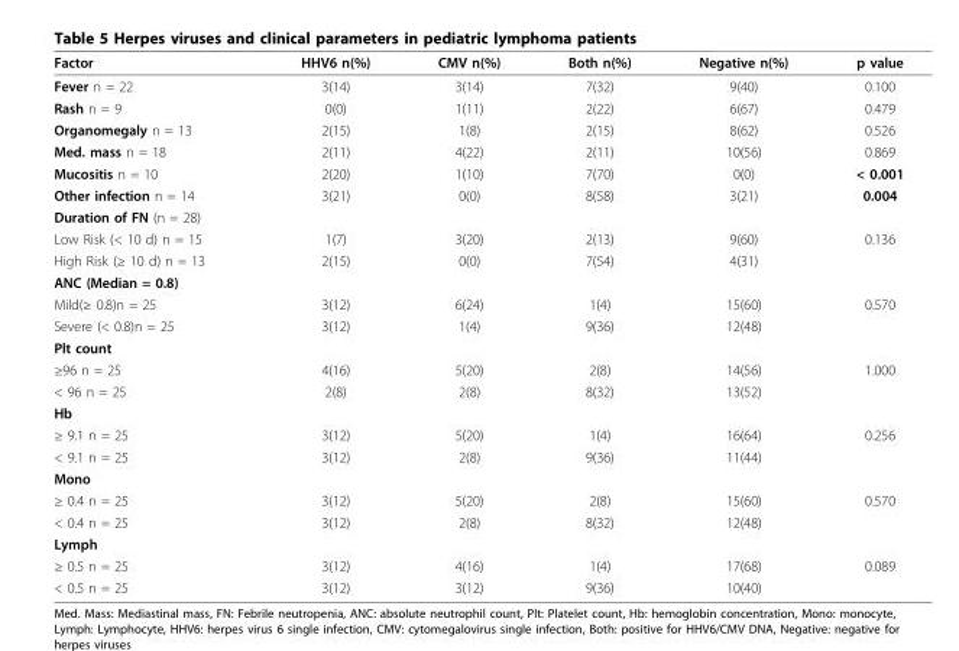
<table><thead><tr><td>Factor</td><td>HHV6 n(%)</td><td>CMV n(%)</td><td>Both n(%)</td><td>Negative n(%)</td><td>p value</td></tr></thead><tbody><tr><td>Fever n = 22</td><td>3(14)</td><td>3(14)</td><td>7(32)</td><td>9(40)</td><td>0.100</td></tr><tr><td>Rash n = 9</td><td>0(0)</td><td>1(11)</td><td>2(22)</td><td>6(67)</td><td>0.479</td></tr><tr><td>Organomegaly n = 13</td><td>2(15)</td><td>1(8)</td><td>2(15)</td><td>8(62)</td><td>0.526</td></tr><tr><td>Med. mass n = 18</td><td>2(11)</td><td>4(22)</td><td>2(11)</td><td>10(56)</td><td>0.869</td></tr><tr><td>Mucositis n = 10</td><td>2(20)</td><td>1(10)</td><td>7(70)</td><td>0(0)</td><td>&lt; 0.001</td></tr><tr><td>Other infection n = 14</td><td>3(21)</td><td>0(0)</td><td>8(58)</td><td>3(21)</td><td>0.004</td></tr><tr><td colspan="6">Duration of FN (n = 28)</td></tr><tr><td>Low Risk (&lt; 10 d) n = 15</td><td>1(7)</td><td>3(20)</td><td>2(13)</td><td>9(60)</td><td>0.136</td></tr><tr><td>High Risk (≥ 10 d) n = 13</td><td>2(15)</td><td>0(0)</td><td>7(54)</td><td>4(31)</td><td></td></tr><tr><td colspan="6">ANC (Median = 0.8)</td></tr><tr><td>Mild(≥ 0.8)n = 25</td><td>3(12)</td><td>6(24)</td><td>1(4)</td><td>15(60)</td><td>0.570</td></tr><tr><td>Severe (&lt; 0.8)n = 25</td><td>3(12)</td><td>1(4)</td><td>9(36)</td><td>12(48)</td><td></td></tr><tr><td colspan="6">Plt count</td></tr><tr><td>≥96 n = 25</td><td>4(16)</td><td>5(20)</td><td>2(8)</td><td>14(56)</td><td>1.000</td></tr><tr><td>&lt; 96 n = 25</td><td>2(8)</td><td>2(8)</td><td>8(32)</td><td>13(52)</td><td></td></tr><tr><td colspan="6">Hb</td></tr><tr><td>≥ 9.1 n = 25</td><td>3(12)</td><td>5(20)</td><td>1(4)</td><td>16(64)</td><td>0.256</td></tr><tr><td>&lt; 9.1 n = 25</td><td>3(12)</td><td>2(8)</td><td>9(36)</td><td>11(44)</td><td></td></tr><tr><td colspan="6">Mono</td></tr><tr><td>≥ 0.4 n = 25</td><td>3(12)</td><td>5(20)</td><td>2(8)</td><td>15(60)</td><td>0.570</td></tr><tr><td>&lt; 0.4 n = 25</td><td>3(12)</td><td>2(8)</td><td>8(32)</td><td>12(48)</td><td></td></tr><tr><td colspan="6">Lymph</td></tr><tr><td>≥ 0.5 n = 25</td><td>3(12)</td><td>4(16)</td><td>1(4)</td><td>17(68)</td><td>0.089</td></tr><tr><td>&lt; 0.5 n = 25</td><td>3(12)</td><td>3(12)</td><td>9(36)</td><td>10(40)</td><td></td></tr></tbody></table>